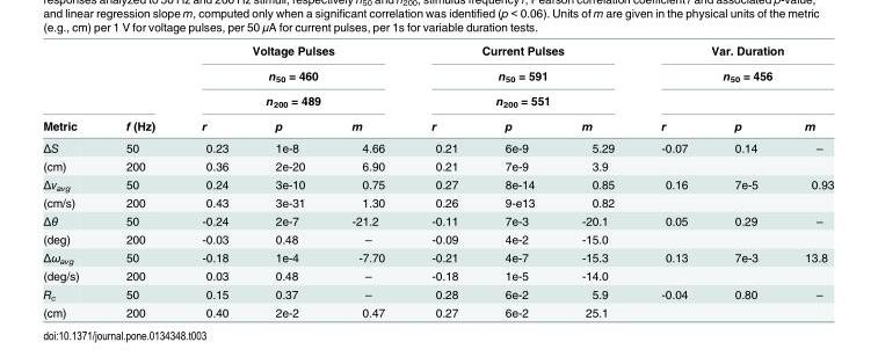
<table><thead><tr><td rowspan="4">Metric</td><td rowspan="4">f (Hz)</td><td rowspan="3" colspan="3">Voltage Pulses n<sub>50</sub> = 460 n<sub>200</sub> = 489</td><td rowspan="3" colspan="3">Current Pulses n<sub>50</sub> = 591 n<sub>200</sub> = 551</td><td rowspan="2" colspan="3">Var. Duration n<sub>50</sub> = 456</td></tr><tr></tr><tr><td rowspan="2">r</td><td rowspan="2">p</td><td rowspan="2">m</td></tr><tr><td>r</td><td>p</td><td>m</td><td>r</td><td>p</td><td>m</td></tr></thead><tbody><tr><td>ΔS</td><td>50</td><td>0.23</td><td>1e-8</td><td>4.66</td><td>0.21</td><td>6e-9</td><td>5.29</td><td>-0.07</td><td>0.14</td><td>–</td></tr><tr><td>(cm)</td><td>200</td><td>0.36</td><td>2e-20</td><td>6.90</td><td>0.21</td><td>7e-9</td><td>3.9</td><td></td><td></td><td></td></tr><tr><td>Δv<sub>avg</sub></td><td>50</td><td>0.24</td><td>3e-10</td><td>0.75</td><td>0.27</td><td>8e-14</td><td>0.85</td><td>0.16</td><td>7e-5</td><td>0.93</td></tr><tr><td>(cm/s)</td><td>200</td><td>0.43</td><td>3e-31</td><td>1.30</td><td>0.26</td><td>9-e13</td><td>0.82</td><td></td><td></td><td></td></tr><tr><td>Δθ</td><td>50</td><td>-0.24</td><td>2e-7</td><td>-21.2</td><td>-0.11</td><td>7e-3</td><td>-20.1</td><td>0.05</td><td>0.29</td><td>–</td></tr><tr><td>(deg)</td><td>200</td><td>-0.03</td><td>0.48</td><td>–</td><td>-0.09</td><td>4e-2</td><td>-15.0</td><td></td><td></td><td></td></tr><tr><td>Δω<sub>avg</sub></td><td>50</td><td>-0.18</td><td>1e-4</td><td>-7.70</td><td>-0.21</td><td>4e-7</td><td>-15.3</td><td>0.13</td><td>7e-3</td><td>13.8</td></tr><tr><td>(deg/s)</td><td>200</td><td>0.03</td><td>0.48</td><td>–</td><td>-0.18</td><td>1e-5</td><td>-14.0</td><td></td><td></td><td></td></tr><tr><td>R<sub>c</sub></td><td>50</td><td>0.15</td><td>0.37</td><td>–</td><td>0.28</td><td>6e-2</td><td>5.9</td><td>-0.04</td><td>0.80</td><td>–</td></tr><tr><td>(cm)</td><td>200</td><td>0.40</td><td>2e-2</td><td>0.47</td><td>0.27</td><td>6e-2</td><td>25.1</td><td></td><td></td><td></td></tr></tbody></table>